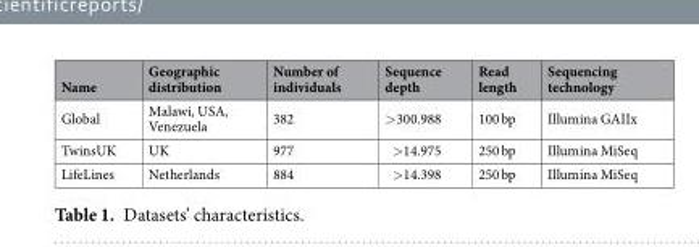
<table><thead><tr><td>Name</td><td>Geographic distribution</td><td>Number of individuals</td><td>Sequence depth</td><td>Read length</td><td>Sequencing technology</td></tr></thead><tbody><tr><td>Global</td><td>Malawi, USA, Venezuela</td><td>382</td><td>&gt;300.988</td><td>100 bp</td><td>Illumina GAIIx</td></tr><tr><td>TwinsUK</td><td>UK</td><td>977</td><td>&gt;14.975</td><td>250 bp</td><td>Illumina MiSeq</td></tr><tr><td>LifeLines</td><td>Netherlands</td><td>884</td><td>&gt;14.398</td><td>250 bp</td><td>Illumina MiSeq</td></tr></tbody></table>